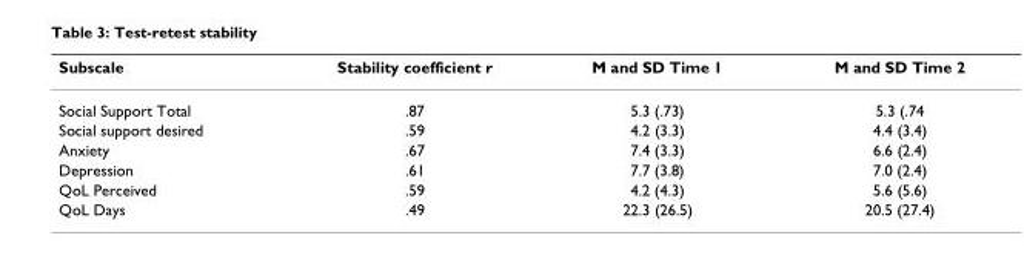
<table><thead><tr><td>Subscale</td><td>Stability coefficient r</td><td>M and SD Time 1</td><td>M and SD Time 2</td></tr></thead><tbody><tr><td>Social Support Total</td><td>.87</td><td>5.3 (.73)</td><td>5.3 (.74</td></tr><tr><td>Social support desired</td><td>.59</td><td>4.2 (3.3)</td><td>4.4 (3.4)</td></tr><tr><td>Anxiety</td><td>.67</td><td>7.4 (3.3)</td><td>6.6 (2.4)</td></tr><tr><td>Depression</td><td>.61</td><td>7.7 (3.8)</td><td>7.0 (2.4)</td></tr><tr><td>QoL Perceived</td><td>.59</td><td>4.2 (4.3)</td><td>5.6 (5.6)</td></tr><tr><td>QoL Days</td><td>.49</td><td>22.3 (26.5)</td><td>20.5 (27.4)</td></tr></tbody></table>